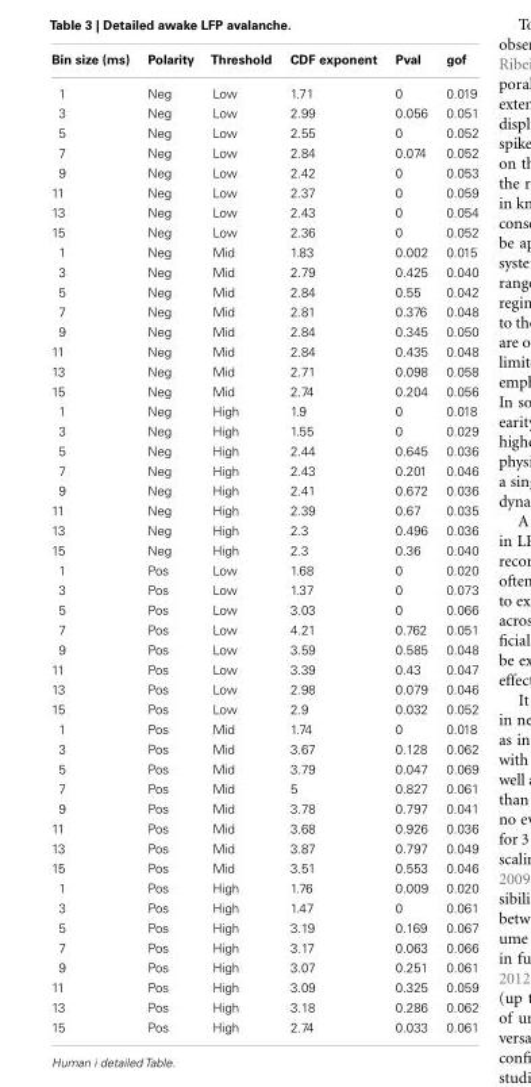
<table><thead><tr><td>Bin size (ms)</td><td>Polarity</td><td>Threshold</td><td>CDF exponent</td><td>Pval</td><td>gof</td></tr></thead><tbody><tr><td>1</td><td>Neg</td><td>Low</td><td>1.71</td><td>0</td><td>0.019</td></tr><tr><td>3</td><td>Neg</td><td>Low</td><td>2.99</td><td>0.056</td><td>0.051</td></tr><tr><td>5</td><td>Neg</td><td>Low</td><td>2.55</td><td>0</td><td>0.052</td></tr><tr><td>7</td><td>Neg</td><td>Low</td><td>2.84</td><td>0.074</td><td>0.052</td></tr><tr><td>9</td><td>Neg</td><td>Low</td><td>2.42</td><td>0</td><td>0.053</td></tr><tr><td>11</td><td>Neg</td><td>Low</td><td>2.37</td><td>0</td><td>0.059</td></tr><tr><td>13</td><td>Neg</td><td>Low</td><td>2.43</td><td>0</td><td>0.054</td></tr><tr><td>15</td><td>Neg</td><td>Low</td><td>2.36</td><td>0</td><td>0.052</td></tr><tr><td>1</td><td>Neg</td><td>Mid</td><td>1.83</td><td>0.002</td><td>0.015</td></tr><tr><td>3</td><td>Neg</td><td>Mid</td><td>2.79</td><td>0.425</td><td>0.040</td></tr><tr><td>5</td><td>Neg</td><td>Mid</td><td>2.84</td><td>0.55</td><td>0.042</td></tr><tr><td>7</td><td>Neg</td><td>Mid</td><td>2.81</td><td>0.376</td><td>0.048</td></tr><tr><td>9</td><td>Neg</td><td>Mid</td><td>2.84</td><td>0.345</td><td>0.050</td></tr><tr><td>11</td><td>Neg</td><td>Mid</td><td>2.84</td><td>0.435</td><td>0.048</td></tr><tr><td>13</td><td>Neg</td><td>Mid</td><td>2.71</td><td>0.098</td><td>0.058</td></tr><tr><td>15</td><td>Neg</td><td>Mid</td><td>2.74</td><td>0.204</td><td>0.056</td></tr><tr><td>1</td><td>Neg</td><td>High</td><td>1.9</td><td>0</td><td>0.018</td></tr><tr><td>3</td><td>Neg</td><td>High</td><td>1.55</td><td>0</td><td>0.029</td></tr><tr><td>5</td><td>Neg</td><td>High</td><td>2.44</td><td>0.645</td><td>0.036</td></tr><tr><td>7</td><td>Neg</td><td>High</td><td>2.43</td><td>0.201</td><td>0.046</td></tr><tr><td>9</td><td>Neg</td><td>High</td><td>2.41</td><td>0.672</td><td>0.036</td></tr><tr><td>11</td><td>Neg</td><td>High</td><td>2.39</td><td>0.67</td><td>0.035</td></tr><tr><td>13</td><td>Neg</td><td>High</td><td>2.3</td><td>0.496</td><td>0.036</td></tr><tr><td>15</td><td>Neg</td><td>High</td><td>2.3</td><td>0.36</td><td>0.040</td></tr><tr><td>1</td><td>Pos</td><td>Low</td><td>1.68</td><td>0</td><td>0.020</td></tr><tr><td>3</td><td>Pos</td><td>Low</td><td>1.37</td><td>0</td><td>0.073</td></tr><tr><td>5</td><td>Pos</td><td>Low</td><td>3.03</td><td>0</td><td>0.066</td></tr><tr><td>7</td><td>Pos</td><td>Low</td><td>4.21</td><td>0.762</td><td>0.051</td></tr><tr><td>9</td><td>Pos</td><td>Low</td><td>3.59</td><td>0.585</td><td>0.048</td></tr><tr><td>11</td><td>Pos</td><td>Low</td><td>3.39</td><td>0.43</td><td>0.047</td></tr><tr><td>13</td><td>Pos</td><td>Low</td><td>2.98</td><td>0.079</td><td>0.046</td></tr><tr><td>15</td><td>Pos</td><td>Low</td><td>2.9</td><td>0.032</td><td>0.052</td></tr><tr><td>1</td><td>Pos</td><td>Mid</td><td>1.74</td><td>0</td><td>0.018</td></tr><tr><td>3</td><td>Pos</td><td>Mid</td><td>3.67</td><td>0.128</td><td>0.062</td></tr><tr><td>5</td><td>Pos</td><td>Mid</td><td>3.79</td><td>0.047</td><td>0.069</td></tr><tr><td>7</td><td>Pos</td><td>Mid</td><td>5</td><td>0.827</td><td>0.061</td></tr><tr><td>9</td><td>Pos</td><td>Mid</td><td>3.78</td><td>0.797</td><td>0.041</td></tr><tr><td>11</td><td>Pos</td><td>Mid</td><td>3.68</td><td>0.926</td><td>0.036</td></tr><tr><td>13</td><td>Pos</td><td>Mid</td><td>3.87</td><td>0.797</td><td>0.049</td></tr><tr><td>15</td><td>Pos</td><td>Mid</td><td>3.51</td><td>0.553</td><td>0.046</td></tr><tr><td>1</td><td>Pos</td><td>High</td><td>1.76</td><td>0.009</td><td>0.020</td></tr><tr><td>3</td><td>Pos</td><td>High</td><td>1.47</td><td>0</td><td>0.061</td></tr><tr><td>5</td><td>Pos</td><td>High</td><td>3.19</td><td>0.169</td><td>0.067</td></tr><tr><td>7</td><td>Pos</td><td>High</td><td>3.17</td><td>0.063</td><td>0.066</td></tr><tr><td>9</td><td>Pos</td><td>High</td><td>3.07</td><td>0.251</td><td>0.061</td></tr><tr><td>11</td><td>Pos</td><td>High</td><td>3.09</td><td>0.325</td><td>0.059</td></tr><tr><td>13</td><td>Pos</td><td>High</td><td>3.18</td><td>0.286</td><td>0.062</td></tr><tr><td>15</td><td>Pos</td><td>High</td><td>2.74</td><td>0.033</td><td>0.061</td></tr></tbody></table>